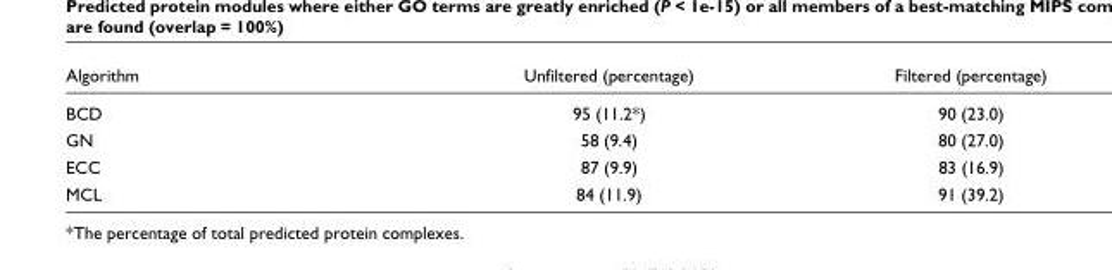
<table><thead><tr><td>Algorithm</td><td>Unfiltered (percentage)</td><td>Filtered (percentage)</td></tr></thead><tbody><tr><td>BCD</td><td>95 (11.2*)</td><td>90 (23.0)</td></tr><tr><td>GN</td><td>58 (9.4)</td><td>80 (27.0)</td></tr><tr><td>ECC</td><td>87 (9.9)</td><td>83 (16.9)</td></tr><tr><td>MCL</td><td>84 (11.9)</td><td>91 (39.2)</td></tr></tbody></table>